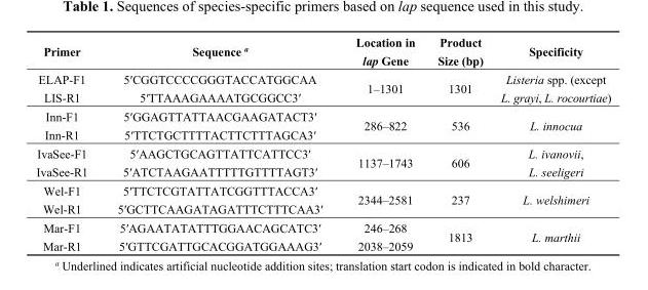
<table><thead><tr><td>Primer</td><td>Sequence <sup>a</sup></td><td>Location in lap Gene</td><td>Product Size (bp)</td><td>Specificity</td></tr></thead><tbody><tr><td>ELAP-F1</td><td>5′CGGTCCCCGGGTACCATGGCAA</td><td rowspan="2">1–1301</td><td rowspan="2">1301</td><td rowspan="2">Listeria spp. (except L. grayi, L. rocourtiae)</td></tr><tr><td>LIS-R1</td><td>5′TTAAAGAAAATGCGGCC3′</td></tr><tr><td>Inn-F1</td><td>5′GGAGTTATTAACGAAGATACT3′</td><td rowspan="2">286–822</td><td rowspan="2">536</td><td rowspan="2">L. innocua</td></tr><tr><td>Inn-R1</td><td>5′TTCTGCTTTTACTTCTTTAGCA3′</td></tr><tr><td>IvaSee-F1</td><td>5′AAGCTGCAGTTATTCATTCC3′</td><td rowspan="2">1137–1743</td><td rowspan="2">606</td><td rowspan="2">L. ivanovii, L. seeligeri</td></tr><tr><td>IvaSee-R1</td><td>5′ATCTAAGAATTTTTGTTTTAGT3′</td></tr><tr><td>Wel-F1</td><td>5′TTCTCGTATTATCGGTTTACCA3′</td><td rowspan="2">2344–2581</td><td rowspan="2">237</td><td rowspan="2">L. welshimeri</td></tr><tr><td>Wel-R1</td><td>5′GCTTCAAGATAGATTTCTTTCAA3′</td></tr><tr><td>Mar-F1</td><td>5′AGAATATATTTGGAACAGCATC3′</td><td>246–268</td><td rowspan="2">1813</td><td rowspan="2">L. marthii</td></tr><tr><td>Mar-R1</td><td>5′GTTCGATTGCACGGATGGAAAG3′</td><td>2038–2059</td></tr></tbody></table>